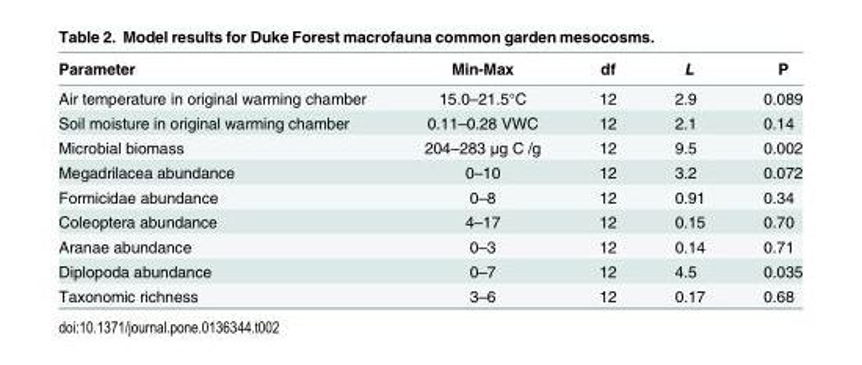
<table><thead><tr><td>Parameter</td><td>Min-Max</td><td>df</td><td>L</td><td>P</td></tr></thead><tbody><tr><td>Air temperature in original warming chamber</td><td>15.0–21.5°C</td><td>12</td><td>2.9</td><td>0.089</td></tr><tr><td>Soil moisture in original warming chamber</td><td>0.11–0.28 VWC</td><td>12</td><td>2.1</td><td>0.14</td></tr><tr><td>Microbial biomass</td><td>204–283 μg C /g</td><td>12</td><td>9.5</td><td>0.002</td></tr><tr><td>Megadrilacea abundance</td><td>0–10</td><td>12</td><td>3.2</td><td>0.072</td></tr><tr><td>Formicidae abundance</td><td>0–8</td><td>12</td><td>0.91</td><td>0.34</td></tr><tr><td>Coleoptera abundance</td><td>4–17</td><td>12</td><td>0.15</td><td>0.70</td></tr><tr><td>Aranae abundance</td><td>0–3</td><td>12</td><td>0.14</td><td>0.71</td></tr><tr><td>Diplopoda abundance</td><td>0–7</td><td>12</td><td>4.5</td><td>0.035</td></tr><tr><td>Taxonomic richness</td><td>3–6</td><td>12</td><td>0.17</td><td>0.68</td></tr></tbody></table>